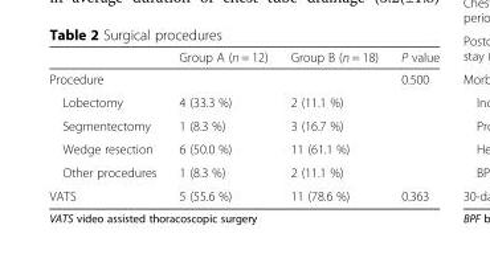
<table><thead><tr><td></td><td>Group A (n = 12)</td><td>Group B (n = 18)</td><td>P value</td></tr></thead><tbody><tr><td>Procedure</td><td></td><td></td><td>0.500</td></tr><tr><td>Lobectomy</td><td>4 (33.3 %)</td><td>2 (11.1 %)</td><td></td></tr><tr><td>Segmentectomy</td><td>1 (8.3 %)</td><td>3 (16.7 %)</td><td></td></tr><tr><td>Wedge resection</td><td>6 (50.0 %)</td><td>11 (61.1 %)</td><td></td></tr><tr><td>Other procedures</td><td>1 (8.3 %)</td><td>2 (11.1 %)</td><td></td></tr><tr><td>VATS</td><td>5 (55.6 %)</td><td>11 (78.6 %)</td><td>0.363</td></tr></tbody></table>